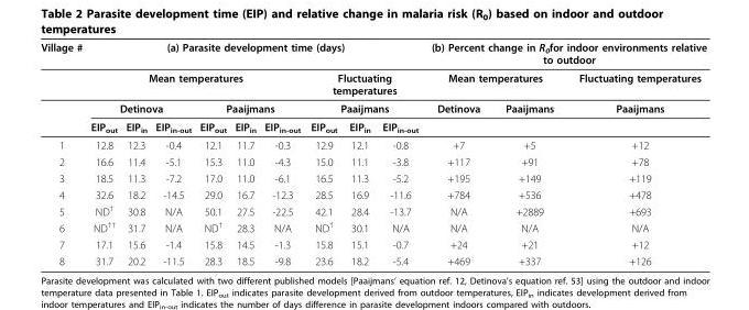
<table><thead><tr><td rowspan="4">Village #</td><td colspan="9">(a) Parasite development time (days)</td><td colspan="3">(b) Percent change in R0for indoor environments relative to outdoor</td></tr><tr><td colspan="6">Mean temperatures</td><td rowspan="2" colspan="3">Fluctuating temperatures Paaijmans</td><td colspan="2">Mean temperatures</td><td rowspan="3">Fluctuating temperatures Paaijmans</td></tr><tr><td colspan="3">Detinova</td><td colspan="3">Paaijmans</td><td rowspan="2">Detinova</td><td rowspan="2">Paaijmans</td></tr><tr><td>EIP<sub>out</sub></td><td>EIP<sub>in</sub></td><td>EIP<sub>in-out</sub></td><td>EIP<sub>out</sub></td><td>EIP<sub>in</sub></td><td>EIP<sub>in-out</sub></td><td>EIP<sub>out</sub></td><td>EIP<sub>in</sub></td><td>EIP<sub>in-out</sub></td></tr></thead><tbody><tr><td>1</td><td>12.8</td><td>12.3</td><td>-0.4</td><td>12.1</td><td>11.7</td><td>-0.3</td><td>12.9</td><td>12.1</td><td>-0.8</td><td>+7</td><td>+5</td><td>+12</td></tr><tr><td>2</td><td>16.6</td><td>11.4</td><td>-5.1</td><td>15.3</td><td>11.0</td><td>-4.3</td><td>15.0</td><td>11.1</td><td>-3.8</td><td>+117</td><td>+91</td><td>+78</td></tr><tr><td>3</td><td>18.5</td><td>11.3</td><td>-7.2</td><td>17.0</td><td>11.0</td><td>-6.1</td><td>16.5</td><td>11.3</td><td>-5.2</td><td>+195</td><td>+149</td><td>+119</td></tr><tr><td>4</td><td>32.6</td><td>18.2</td><td>-14.5</td><td>29.0</td><td>16.7</td><td>-12.3</td><td>28.5</td><td>16.9</td><td>-11.6</td><td>+784</td><td>+536</td><td>+478</td></tr><tr><td>5</td><td>ND<sup>†</sup></td><td>30.8</td><td>N/A</td><td>50.1</td><td>27.5</td><td>-22.5</td><td>42.1</td><td>28.4</td><td>-13.7</td><td>N/A</td><td>+2889</td><td>+693</td></tr><tr><td>6</td><td>ND<sup>††</sup></td><td>31.7</td><td>N/A</td><td>ND<sup>†</sup></td><td>28.3</td><td>N/A</td><td>ND<sup>†</sup></td><td>30.1</td><td>N/A</td><td>N/A</td><td>N/A</td><td>N/A</td></tr><tr><td>7</td><td>17.1</td><td>15.6</td><td>-1.4</td><td>15.8</td><td>14.5</td><td>-1.3</td><td>15.8</td><td>15.1</td><td>-0.7</td><td>+24</td><td>+21</td><td>+12</td></tr><tr><td>8</td><td>31.7</td><td>20.2</td><td>-11.5</td><td>28.3</td><td>18.5</td><td>-9.8</td><td>23.6</td><td>18.2</td><td>-5.4</td><td>+469</td><td>+337</td><td>+126</td></tr></tbody></table>